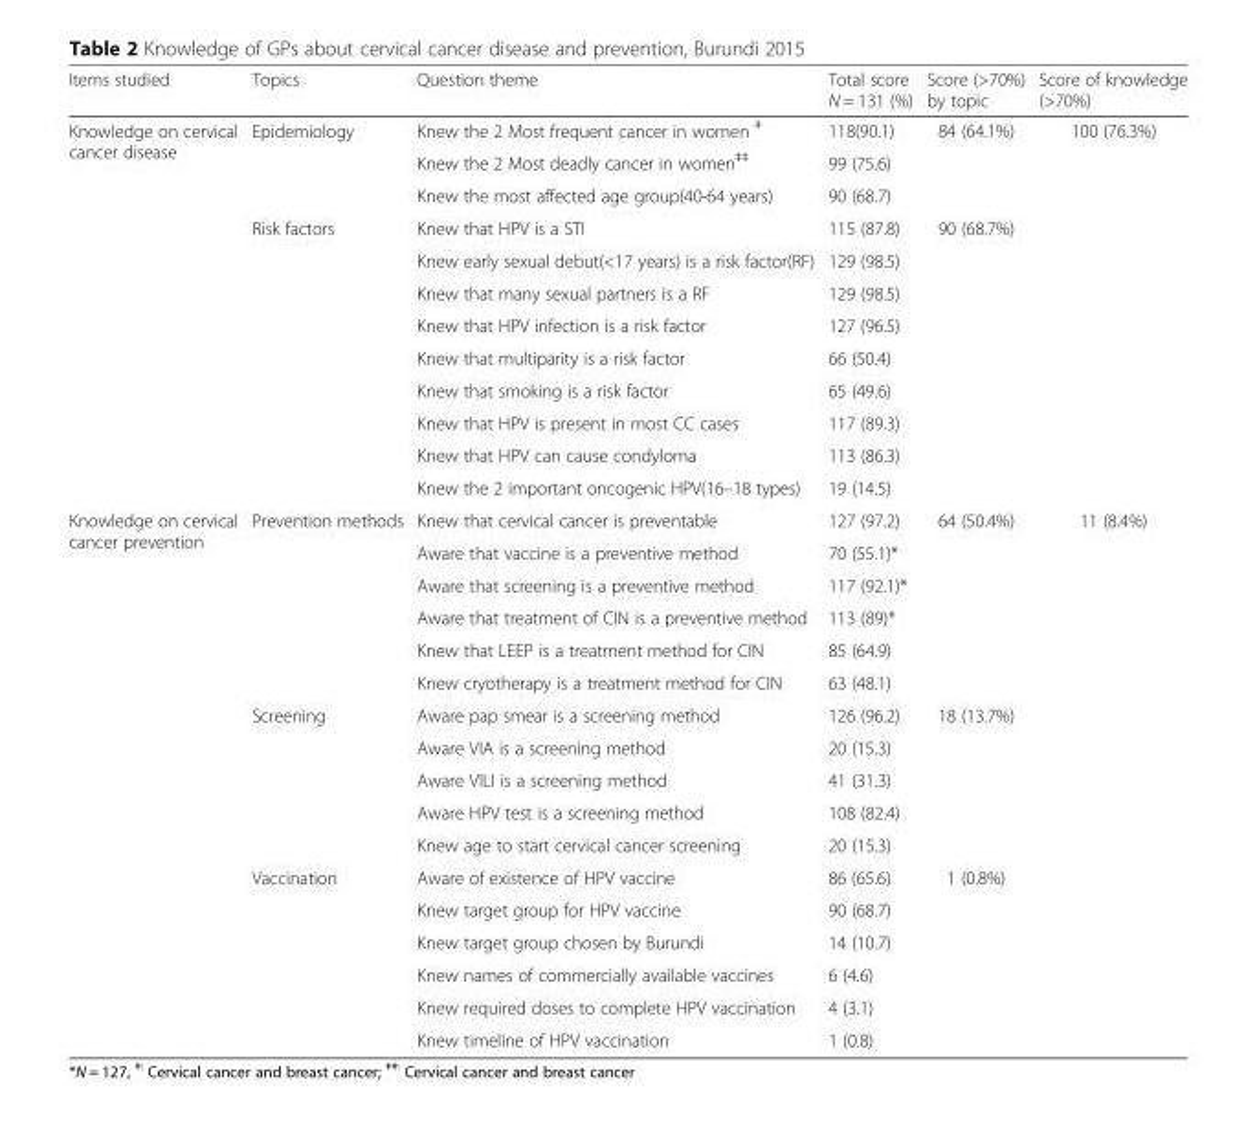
<table><thead><tr><td>Items studied</td><td>Topics</td><td>Question theme</td><td>Total score N = 131 (%)</td><td>Score (&gt;70%) by topic</td><td>Score of knowledge (&gt;70%)</td></tr></thead><tbody><tr><td rowspan="12">Knowledge on cervical cancer disease</td><td rowspan="3">Epidemiology</td><td>Knew the 2 Most frequent cancer in women <sup>ǂ</sup></td><td>118(90.1)</td><td rowspan="3">84 (64.1%)</td><td rowspan="12">100 (76.3%)</td></tr><tr><td>Knew the 2 Most deadly cancer in women<sup>ǂǂ</sup></td><td>99 (75.6)</td></tr><tr><td>Knew the most affected age group(40-64 years)</td><td>90 (68.7)</td></tr><tr><td rowspan="9">Risk factors</td><td>Knew that HPV is a STI</td><td>115 (87.8)</td><td rowspan="9">90 (68.7%)</td></tr><tr><td>Knew early sexual debut(&lt;17 years) is a risk factor(RF)</td><td>129 (98.5)</td></tr><tr><td>Knew that many sexual partners is a RF</td><td>129 (98.5)</td></tr><tr><td>Knew that HPV infection is a risk factor</td><td>127 (96.5)</td></tr><tr><td>Knew that multiparity is a risk factor</td><td>66 (50.4)</td></tr><tr><td>Knew that smoking is a risk factor</td><td>65 (49.6)</td></tr><tr><td>Knew that HPV is present in most CC cases</td><td>117 (89.3)</td></tr><tr><td>Knew that HPV can cause condyloma</td><td>113 (86.3)</td></tr><tr><td>Knew the 2 important oncogenic HPV(16–18 types)</td><td>19 (14.5)</td></tr><tr><td rowspan="17">Knowledge on cervical cancer prevention</td><td rowspan="6">Prevention methods</td><td>Knew that cervical cancer is preventable</td><td>127 (97.2)</td><td rowspan="6">64 (50.4%)</td><td rowspan="17">11 (8.4%)</td></tr><tr><td>Aware that vaccine is a preventive method</td><td>70 (55.1)*</td></tr><tr><td>Aware that screening is a preventive method</td><td>117 (92.1)*</td></tr><tr><td>Aware that treatment of CIN is a preventive method</td><td>113 (89)*</td></tr><tr><td>Knew that LEEP is a treatment method for CIN</td><td>85 (64.9)</td></tr><tr><td>Knew cryotherapy is a treatment method for CIN</td><td>63 (48.1)</td></tr><tr><td rowspan="5">Screening</td><td>Aware pap smear is a screening method</td><td>126 (96.2)</td><td rowspan="5">18 (13.7%)</td></tr><tr><td>Aware VIA is a screening method</td><td>20 (15.3)</td></tr><tr><td>Aware VILI is a screening method</td><td>41 (31.3)</td></tr><tr><td>Aware HPV test is a screening method</td><td>108 (82.4)</td></tr><tr><td>Knew age to start cervical cancer screening</td><td>20 (15.3)</td></tr><tr><td rowspan="6">Vaccination</td><td>Aware of existence of HPV vaccine</td><td>86 (65.6)</td><td rowspan="6">1 (0.8%)</td></tr><tr><td>Knew target group for HPV vaccine</td><td>90 (68.7)</td></tr><tr><td>Knew target group chosen by Burundi</td><td>14 (10.7)</td></tr><tr><td>Knew names of commercially available vaccines</td><td>6 (4.6)</td></tr><tr><td>Knew required doses to complete HPV vaccination</td><td>4 (3.1)</td></tr><tr><td>Knew timeline of HPV vaccination</td><td>1 (0.8)</td></tr></tbody></table>